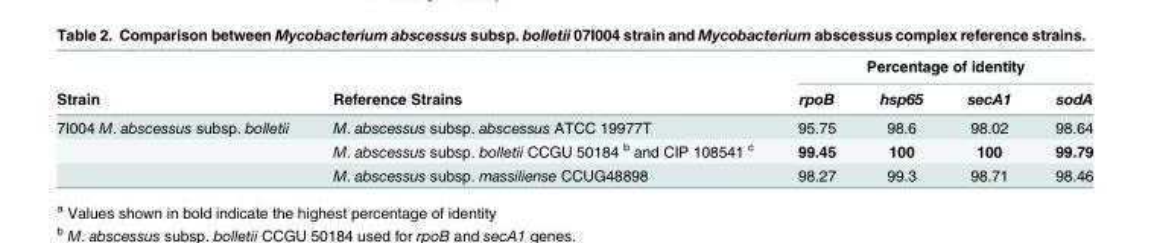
<table><thead><tr><td rowspan="2">Strain</td><td rowspan="2">Reference Strains</td><td colspan="4">Percentage of identity</td></tr><tr><td>rpoB</td><td>hsp65</td><td>secA1</td><td>sodA</td></tr></thead><tbody><tr><td rowspan="3">7I004 M. abscessus subsp. bolletii</td><td>M. abscessus subsp. abscessus ATCC 19977T</td><td>95.75</td><td>98.6</td><td>98.02</td><td>98.64</td></tr><tr><td>M. abscessus subsp. bolletii CCGU 50184 <sup>b</sup> and CIP 108541 <sup>c</sup></td><td>99.45</td><td>100</td><td>100</td><td>99.79</td></tr><tr><td>M. abscessus subsp. massiliense CCUG48898</td><td>98.27</td><td>99.3</td><td>98.71</td><td>98.46</td></tr></tbody></table>